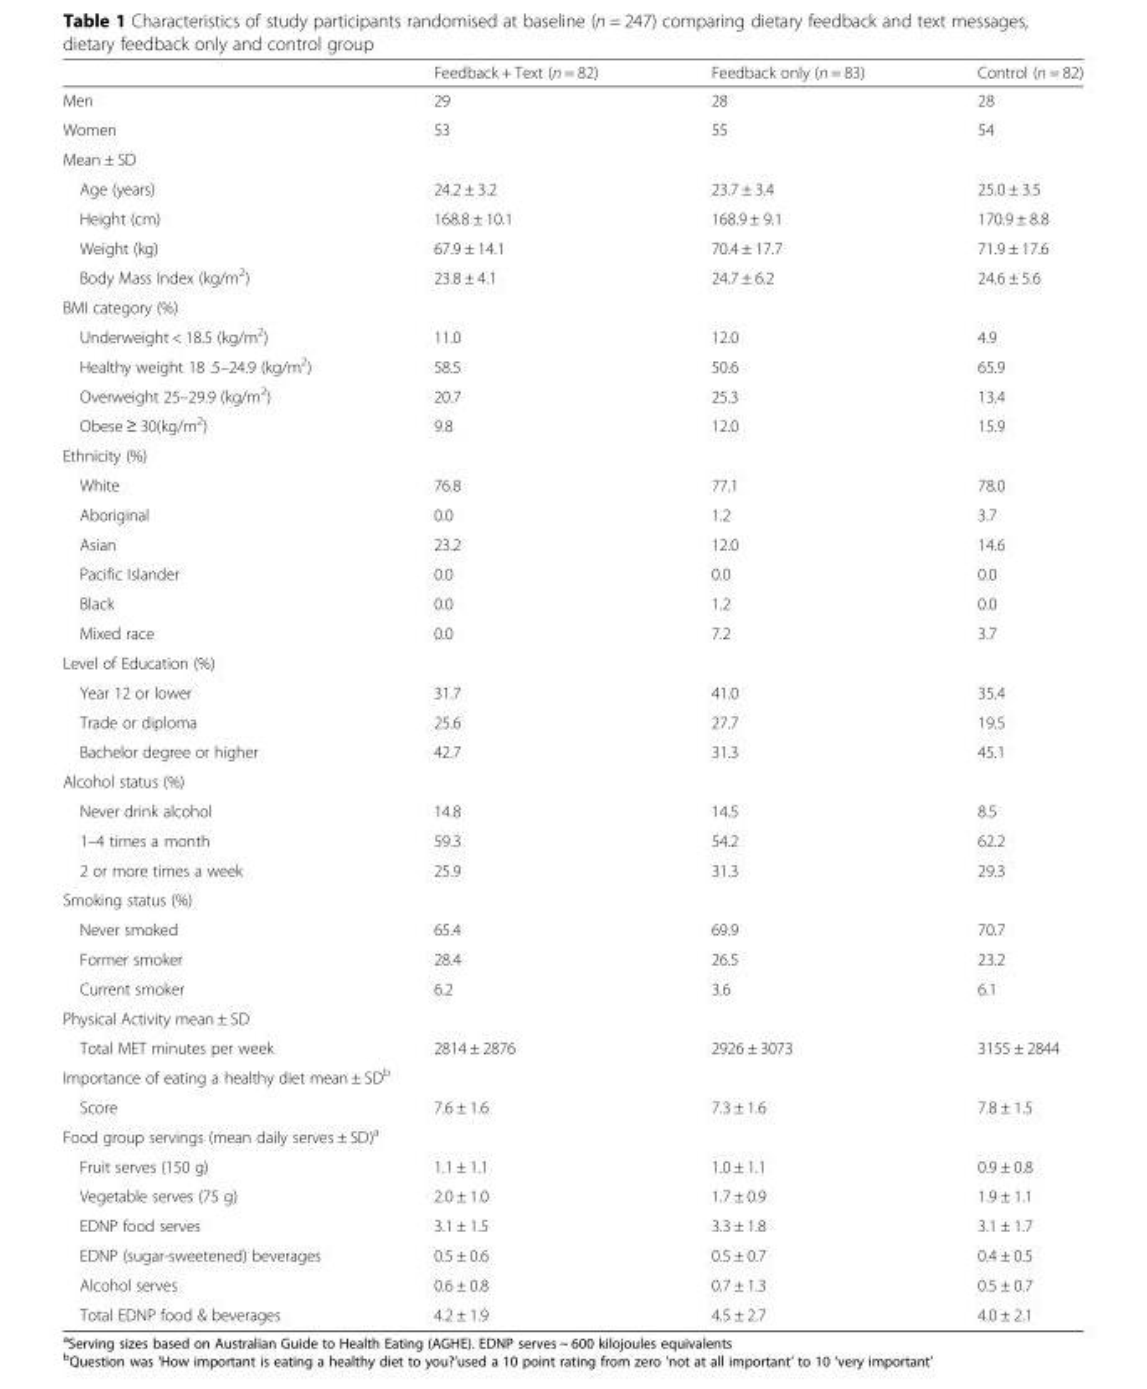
<table><thead><tr><td></td><td>Feedback + Text (n = 82)</td><td>Feedback only (n = 83)</td><td>Control (n = 82)</td></tr></thead><tbody><tr><td>Men</td><td>29</td><td>28</td><td>28</td></tr><tr><td>Women</td><td>53</td><td>55</td><td>54</td></tr><tr><td colspan="4">Mean ± SD</td></tr><tr><td>Age (years)</td><td>24.2 ± 3.2</td><td>23.7 ± 3.4</td><td>25.0 ± 3.5</td></tr><tr><td>Height (cm)</td><td>168.8 ± 10.1</td><td>168.9 ± 9.1</td><td>170.9 ± 8.8</td></tr><tr><td>Weight (kg)</td><td>67.9 ± 14.1</td><td>70.4 ± 17.7</td><td>71.9 ± 17.6</td></tr><tr><td>Body Mass Index (kg/m<sup>2</sup>)</td><td>23.8 ± 4.1</td><td>24.7 ± 6.2</td><td>24.6 ± 5.6</td></tr><tr><td colspan="4">BMI category (%)</td></tr><tr><td>Underweight &lt; 18.5 (kg/m<sup>2</sup>)</td><td>11.0</td><td>12.0</td><td>4.9</td></tr><tr><td>Healthy weight 18 .5–24.9 (kg/m<sup>2</sup>)</td><td>58.5</td><td>50.6</td><td>65.9</td></tr><tr><td>Overweight 25–29.9 (kg/m<sup>2</sup>)</td><td>20.7</td><td>25.3</td><td>13.4</td></tr><tr><td>Obese ≥ 30(kg/m<sup>2</sup>)</td><td>9.8</td><td>12.0</td><td>15.9</td></tr><tr><td colspan="4">Ethnicity (%)</td></tr><tr><td>White</td><td>76.8</td><td>77.1</td><td>78.0</td></tr><tr><td>Aboriginal</td><td>0.0</td><td>1.2</td><td>3.7</td></tr><tr><td>Asian</td><td>23.2</td><td>12.0</td><td>14.6</td></tr><tr><td>Pacific Islander</td><td>0.0</td><td>0.0</td><td>0.0</td></tr><tr><td>Black</td><td>0.0</td><td>1.2</td><td>0.0</td></tr><tr><td>Mixed race</td><td>0.0</td><td>7.2</td><td>3.7</td></tr><tr><td colspan="4">Level of Education (%)</td></tr><tr><td>Year 12 or lower</td><td>31.7</td><td>41.0</td><td>35.4</td></tr><tr><td>Trade or diploma</td><td>25.6</td><td>27.7</td><td>19.5</td></tr><tr><td>Bachelor degree or higher</td><td>42.7</td><td>31.3</td><td>45.1</td></tr><tr><td colspan="4">Alcohol status (%)</td></tr><tr><td>Never drink alcohol</td><td>14.8</td><td>14.5</td><td>8.5</td></tr><tr><td>1–4 times a month</td><td>59.3</td><td>54.2</td><td>62.2</td></tr><tr><td>2 or more times a week</td><td>25.9</td><td>31.3</td><td>29.3</td></tr><tr><td colspan="4">Smoking status (%)</td></tr><tr><td>Never smoked</td><td>65.4</td><td>69.9</td><td>70.7</td></tr><tr><td>Former smoker</td><td>28.4</td><td>26.5</td><td>23.2</td></tr><tr><td>Current smoker</td><td>6.2</td><td>3.6</td><td>6.1</td></tr><tr><td colspan="4">Physical Activity mean ± SD</td></tr><tr><td>Total MET minutes per week</td><td>2814 ± 2876</td><td>2926 ± 3073</td><td>3155 ± 2844</td></tr><tr><td colspan="4">Importance of eating a healthy diet mean ± SD<sup>b</sup></td></tr><tr><td>Score</td><td>7.6 ± 1.6</td><td>7.3 ± 1.6</td><td>7.8 ± 1.5</td></tr><tr><td colspan="4">Food group servings (mean daily serves ± SD)<sup>a</sup></td></tr><tr><td>Fruit serves (150 g)</td><td>1.1 ± 1.1</td><td>1.0 ± 1.1</td><td>0.9 ± 0.8</td></tr><tr><td>Vegetable serves (75 g)</td><td>2.0 ± 1.0</td><td>1.7 ± 0.9</td><td>1.9 ± 1.1</td></tr><tr><td>EDNP food serves</td><td>3.1 ± 1.5</td><td>3.3 ± 1.8</td><td>3.1 ± 1.7</td></tr><tr><td>EDNP (sugar-sweetened) beverages</td><td>0.5 ± 0.6</td><td>0.5 ± 0.7</td><td>0.4 ± 0.5</td></tr><tr><td>Alcohol serves</td><td>0.6 ± 0.8</td><td>0.7 ± 1.3</td><td>0.5 ± 0.7</td></tr><tr><td>Total EDNP food &amp; beverages</td><td>4.2 ± 1.9</td><td>4.5 ± 2.7</td><td>4.0 ± 2.1</td></tr></tbody></table>